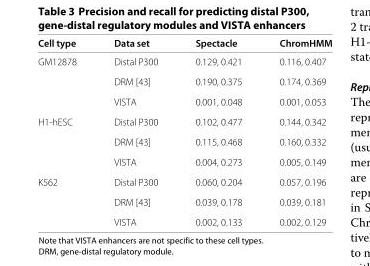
<table><thead><tr><td>Cell type</td><td>Data set</td><td>Spectacle</td><td>ChromHMM</td></tr></thead><tbody><tr><td rowspan="3">GM12878</td><td>Distal P300</td><td>0.129, 0.421</td><td>0.116, 0.407</td></tr><tr><td>DRM [43]</td><td>0.190, 0.375</td><td>0.174, 0.369</td></tr><tr><td>VISTA</td><td>0.001, 0.048</td><td>0.001, 0.053</td></tr><tr><td rowspan="3">H1-hESC</td><td>Distal P300</td><td>0.102, 0.477</td><td>0.144, 0.342</td></tr><tr><td>DRM [43]</td><td>0.115, 0.468</td><td>0.160, 0.332</td></tr><tr><td>VISTA</td><td>0.004, 0.273</td><td>0.005, 0.149</td></tr><tr><td rowspan="3">K562</td><td>Distal P300</td><td>0.060, 0.204</td><td>0.057, 0.196</td></tr><tr><td>DRM [43]</td><td>0.039, 0.178</td><td>0.039, 0.181</td></tr><tr><td>VISTA</td><td>0.002, 0.133</td><td>0.002, 0.129</td></tr></tbody></table>